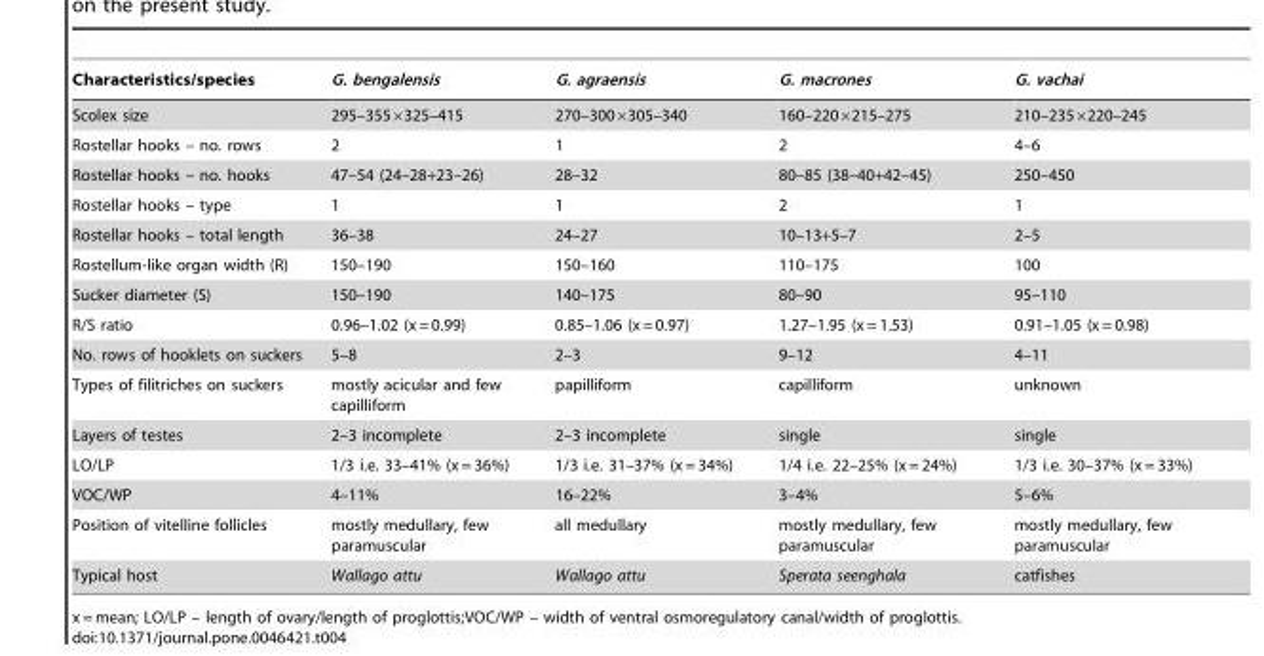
<table><thead><tr><td>Characteristics/species</td><td>G. bengalensis</td><td>G. agraensis</td><td>G. macrones</td><td>G. vachai</td></tr></thead><tbody><tr><td>Scolex size</td><td>295–355×325–415</td><td>270–300×305–340</td><td>160–220×215–275</td><td>210–235×220–245</td></tr><tr><td>Rostellar hooks – no. rows</td><td>2</td><td>1</td><td>2</td><td>4–6</td></tr><tr><td>Rostellar hooks – no. hooks</td><td>47–54 (24–28+23–26)</td><td>28–32</td><td>80–85 (38–40+42–45)</td><td>250–450</td></tr><tr><td>Rostellar hooks – type</td><td>1</td><td>1</td><td>2</td><td>1</td></tr><tr><td>Rostellar hooks – total length</td><td>36–38</td><td>24–27</td><td>10–13+5–7</td><td>2–5</td></tr><tr><td>Rostellum-like organ width (R)</td><td>150–190</td><td>150–160</td><td>110–175</td><td>100</td></tr><tr><td>Sucker diameter (S)</td><td>150–190</td><td>140–175</td><td>80–90</td><td>95–110</td></tr><tr><td>R/S ratio</td><td>0.96–1.02 (x = 0.99)</td><td>0.85–1.06 (x = 0.97)</td><td>1.27–1.95 (x = 1.53)</td><td>0.91–1.05 (x = 0.98)</td></tr><tr><td>No. rows of hooklets on suckers</td><td>5–8</td><td>2–3</td><td>9–12</td><td>4–11</td></tr><tr><td>Types of filitriches on suckers</td><td>mostly acicular and few capilliform</td><td>papilliform</td><td>capilliform</td><td>unknown</td></tr><tr><td>Layers of testes</td><td>2–3 incomplete</td><td>2–3 incomplete</td><td>single</td><td>single</td></tr><tr><td>LO/LP</td><td>1/3 i.e. 33–41% (x = 36%)</td><td>1/3 i.e. 31–37% (x = 34%)</td><td>1/4 i.e. 22–25% (x = 24%)</td><td>1/3 i.e. 30–37% (x = 33%)</td></tr><tr><td>VOC/WP</td><td>4–11%</td><td>16–22%</td><td>3–4%</td><td>5–6%</td></tr><tr><td>Position of vitelline follicles</td><td>mostly medullary, few paramuscular</td><td>all medullary</td><td>mostly medullary, few paramuscular</td><td>mostly medullary, few paramuscular</td></tr><tr><td>Typical host</td><td>Wallago attu</td><td>Wallago attu</td><td>Sperata seenghala</td><td>catfishes</td></tr></tbody></table>